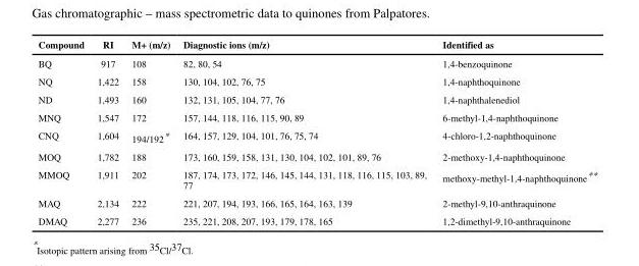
<table><thead><tr><td>Compound</td><td>RI</td><td>M+ (m/z)</td><td>Diagnostic ions (m/z)</td><td>Identified as</td></tr></thead><tbody><tr><td>BQ</td><td>917</td><td>108</td><td>82, 80, 54</td><td>1,4-benzoquinone</td></tr><tr><td>NQ</td><td>1,422</td><td>158</td><td>130, 104, 102, 76, 75</td><td>1,4-naphthoquinone</td></tr><tr><td>ND</td><td>1,493</td><td>160</td><td>132, 131, 105, 104, 77, 76</td><td>1,4-naphthalenediol</td></tr><tr><td>MNQ</td><td>1,547</td><td>172</td><td>157, 144, 118, 116, 115, 90, 89</td><td>6-methyl-1,4-naphthoquinone</td></tr><tr><td>CNQ</td><td>1,604</td><td>194/192*</td><td>164, 157, 129, 104, 101, 76, 75, 74</td><td>4-chloro-1,2-naphthoquinone</td></tr><tr><td>MOQ</td><td>1,782</td><td>188</td><td>173, 160, 159, 158, 131, 130, 104, 102, 101, 89, 76</td><td>2-methoxy-1,4-naphthoquinone</td></tr><tr><td>MMOQ</td><td>1,911</td><td>202</td><td>187, 174, 173, 172, 146, 145, 144, 131, 118, 116, 115, 103, 89, 77</td><td>methoxy-methyl-1,4-naphthoquinone**</td></tr><tr><td>MAQ</td><td>2,134</td><td>222</td><td>221, 207, 194, 193, 166, 165, 164, 163, 139</td><td>2-methyl-9,10-anthraquinone</td></tr><tr><td>DMAQ</td><td>2,277</td><td>236</td><td>235, 221, 208, 207, 193, 179, 178, 165</td><td>1,2-dimethyl-9,10-anthraquinone</td></tr></tbody></table>